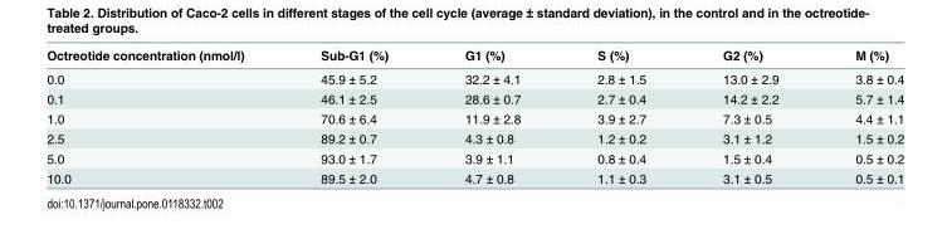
<table><thead><tr><td>Octreotide concentration (nmol/l)</td><td>Sub-G1 (%)</td><td>G1 (%)</td><td>S (%)</td><td>G2 (%)</td><td>M (%)</td></tr></thead><tbody><tr><td>0.0</td><td>45.9 ± 5.2</td><td>32.2 ± 4.1</td><td>2.8 ± 1.5</td><td>13.0 ± 2.9</td><td>3.8 ± 0.4</td></tr><tr><td>0.1</td><td>46.1 ± 2.5</td><td>28.6 ± 0.7</td><td>2.7 ± 0.4</td><td>14.2 ± 2.2</td><td>5.7 ± 1.4</td></tr><tr><td>1.0</td><td>70.6 ± 6.4</td><td>11.9 ± 2.8</td><td>3.9 ± 2.7</td><td>7.3 ± 0.5</td><td>4.4 ± 1.1</td></tr><tr><td>2.5</td><td>89.2 ± 0.7</td><td>4.3 ± 0.8</td><td>1.2 ± 0.2</td><td>3.1 ± 1.2</td><td>1.5 ± 0.2</td></tr><tr><td>5.0</td><td>93.0 ± 1.7</td><td>3.9 ± 1.1</td><td>0.8 ± 0.4</td><td>1.5 ± 0.4</td><td>0.5 ± 0.2</td></tr><tr><td>10.0</td><td>89.5 ± 2.0</td><td>4.7 ± 0.8</td><td>1.1 ± 0.3</td><td>3.1 ± 0.5</td><td>0.5 ± 0.1</td></tr></tbody></table>